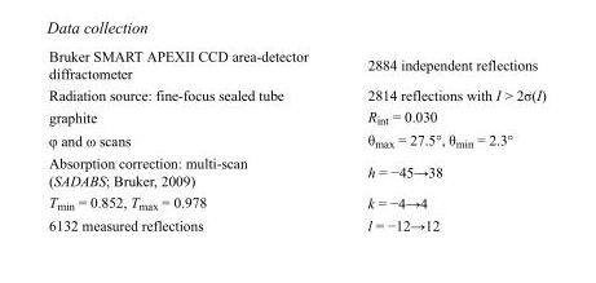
<table><tbody><tr><td>Bruker SMART APEXII CCD area-detector diffractometer</td><td>2884 independent reflections</td></tr><tr><td>Radiation source: fine-focus sealed tube</td><td>2814 reflections with I &gt; 2σ(I)</td></tr><tr><td>graphite</td><td>R<sub>int</sub> = 0.030</td></tr><tr><td>φ and ω scans</td><td>θ<sub>max</sub> = 27.5°, θ<sub>min</sub> = 2.3°</td></tr><tr><td>Absorption correction: multi-scan (SADABS; Bruker, 2009)</td><td>h = −45→38</td></tr><tr><td>T<sub>min</sub> = 0.852, T<sub>max</sub> = 0.978</td><td>k = −4→4</td></tr><tr><td>6132 measured reflections</td><td>l = −12→12</td></tr></tbody></table>